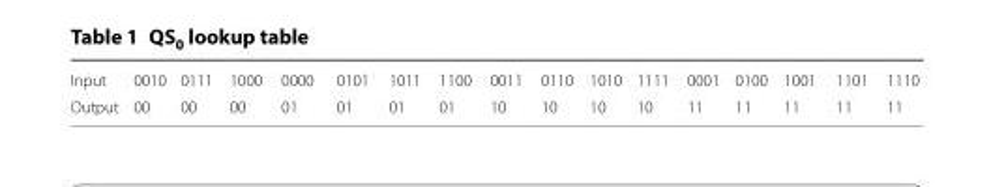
<table><tbody><tr><td>Input</td><td>0010</td><td>0111</td><td>1000</td><td>0000</td><td>0101</td><td>1011</td><td>1100</td><td>0011</td><td>0110</td><td>1010</td><td>1111</td><td>0001</td><td>0100</td><td>1001</td><td>1101</td><td>1110</td></tr><tr><td>Output</td><td>00</td><td>00</td><td>00</td><td>01</td><td>01</td><td>01</td><td>01</td><td>10</td><td>10</td><td>10</td><td>10</td><td>11</td><td>11</td><td>11</td><td>11</td><td>11</td></tr></tbody></table>